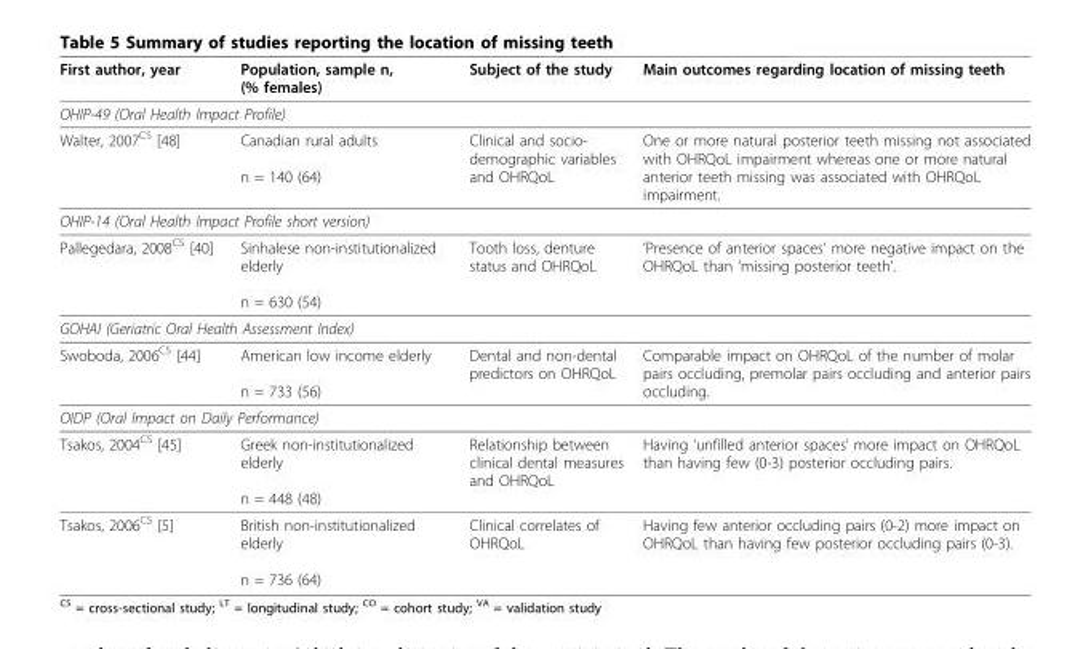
<table><thead><tr><td>First author, year</td><td>Population, sample n, (% females)</td><td>Subject of the study</td><td>Main outcomes regarding location of missing teeth</td></tr></thead><tbody><tr><td colspan="4">OHIP-49 (Oral Health Impact Profile)</td></tr><tr><td>Walter, 2007<sup>CS</sup> [48]</td><td>Canadian rural adults n = 140 (64)</td><td>Clinical and socio- demographic variables and OHRQoL</td><td>One or more natural posterior teeth missing not associated with OHRQoL impairment whereas one or more natural anterior teeth missing was associated with OHRQoL impairment.</td></tr><tr><td colspan="4">OHIP-14 (Oral Health Impact Profile short version)</td></tr><tr><td>Pallegedara, 2008<sup>CS</sup> [40]</td><td>Sinhalese non-institutionalized elderly n = 630 (54)</td><td>Tooth loss, denture status and OHRQoL</td><td>’Presence of anterior spaces’ more negative impact on the OHRQoL than ‘missing posterior teeth’.</td></tr><tr><td colspan="4">GOHAI (Geriatric Oral Health Assessment Index)</td></tr><tr><td>Swoboda, 2006<sup>CS</sup> [44]</td><td>American low income elderly n = 733 (56)</td><td>Dental and non-dental predictors on OHRQoL</td><td>Comparable impact on OHRQoL of the number of molar pairs occluding, premolar pairs occluding and anterior pairs occluding.</td></tr><tr><td colspan="4">OIDP (Oral Impact on Daily Performance)</td></tr><tr><td>Tsakos, 2004<sup>CS</sup> [45]</td><td>Greek non-institutionalized elderly n = 448 (48)</td><td>Relationship between clinical dental measures and OHRQoL</td><td>Having ‘unfilled anterior spaces’ more impact on OHRQoL than having few (0-3) posterior occluding pairs.</td></tr><tr><td>Tsakos, 2006<sup>CS</sup> [5]</td><td>British non-institutionalized elderly n = 736 (64)</td><td>Clinical correlates of OHRQoL</td><td>Having few anterior occluding pairs (0-2) more impact on OHRQoL than having few posterior occluding pairs (0-3).</td></tr></tbody></table>